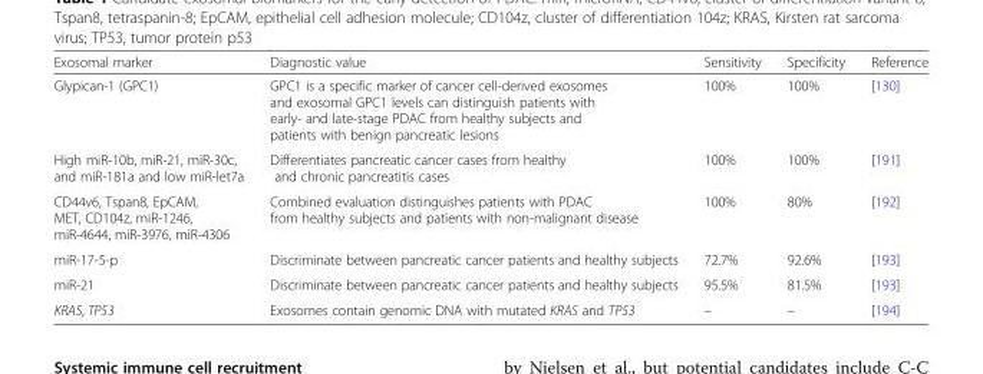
<table><thead><tr><td>Exosomal marker</td><td>Diagnostic value</td><td>Sensitivity</td><td>Specificity</td><td>Reference</td></tr></thead><tbody><tr><td>Glypican-1 (GPC1)</td><td>GPC1 is a specific marker of cancer cell-derived exosomes and exosomal GPC1 levels can distinguish patients with early- and late-stage PDAC from healthy subjects and patients with benign pancreatic lesions</td><td>100%</td><td>100%</td><td>[130]</td></tr><tr><td>High miR-10b, miR-21, miR-30c, and miR-181a and low miR-let7a</td><td>Differentiates pancreatic cancer cases from healthy and chronic pancreatitis cases</td><td>100%</td><td>100%</td><td>[191]</td></tr><tr><td>CD44v6, Tspan8, EpCAM, MET, CD104z, miR-1246, miR-4644, miR-3976, miR-4306</td><td>Combined evaluation distinguishes patients with PDAC from healthy subjects and patients with non-malignant disease</td><td>100%</td><td>80%</td><td>[192]</td></tr><tr><td>miR-17-5-p</td><td>Discriminate between pancreatic cancer patients and healthy subjects</td><td>72.7%</td><td>92.6%</td><td>[193]</td></tr><tr><td>miR-21</td><td>Discriminate between pancreatic cancer patients and healthy subjects</td><td>95.5%</td><td>81.5%</td><td>[193]</td></tr><tr><td>KRAS, TP53</td><td>Exosomes contain genomic DNA with mutated KRAS and TP53</td><td>–</td><td>–</td><td>[194]</td></tr></tbody></table>